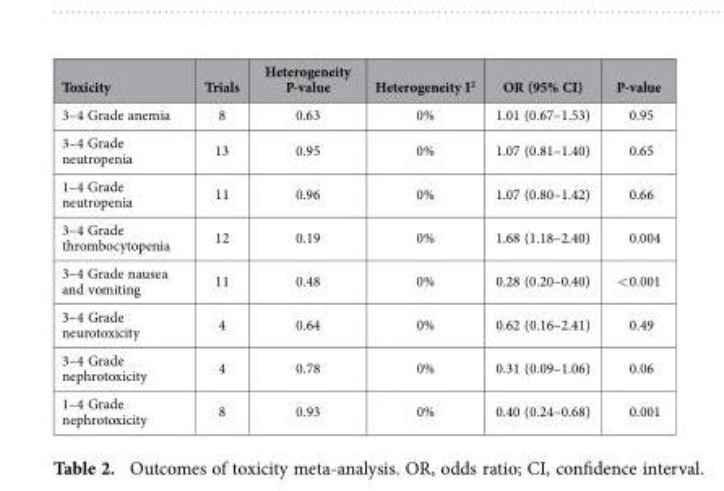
<table><thead><tr><td>Toxicity</td><td>Trials</td><td>Heterogeneity P-value</td><td>Heterogeneity I<sup>2</sup></td><td>OR (95% CI)</td><td>P-value</td></tr></thead><tbody><tr><td>3–4 Grade anemia</td><td>8</td><td>0.63</td><td>0%</td><td>1.01 (0.67–1.53)</td><td>0.95</td></tr><tr><td>3–4 Grade neutropenia</td><td>13</td><td>0.95</td><td>0%</td><td>1.07 (0.81–1.40)</td><td>0.65</td></tr><tr><td>1–4 Grade neutropenia</td><td>11</td><td>0.96</td><td>0%</td><td>1.07 (0.80–1.42)</td><td>0.66</td></tr><tr><td>3–4 Grade thrombocytopenia</td><td>12</td><td>0.19</td><td>0%</td><td>1.68 (1.18–2.40)</td><td>0.004</td></tr><tr><td>3–4 Grade nausea and vomiting</td><td>11</td><td>0.48</td><td>0%</td><td>0.28 (0.20–0.40)</td><td>&lt; 0.001</td></tr><tr><td>3–4 Grade neurotoxicity</td><td>4</td><td>0.64</td><td>0%</td><td>0.62 (0.16–2.41)</td><td>0.49</td></tr><tr><td>3–4 Grade nephrotoxicity</td><td>4</td><td>0.78</td><td>0%</td><td>0.31 (0.09–1.06)</td><td>0.06</td></tr><tr><td>1–4 Grade nephrotoxicity</td><td>8</td><td>0.93</td><td>0%</td><td>0.40 (0.24–0.68)</td><td>0.001</td></tr></tbody></table>